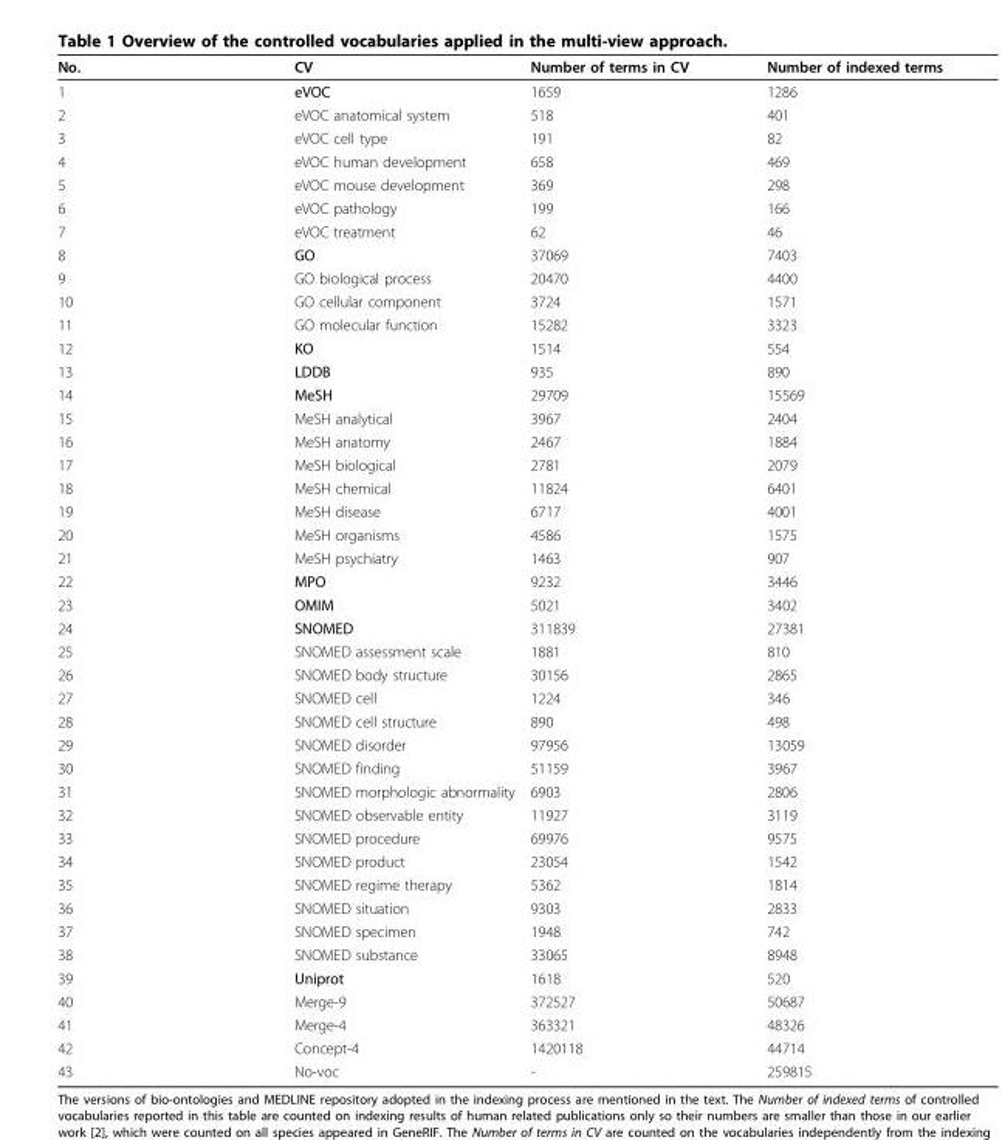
<table><thead><tr><td>No.</td><td>CV</td><td>Number of terms in CV</td><td>Number of indexed terms</td></tr></thead><tbody><tr><td>1</td><td>eVOC</td><td>1659</td><td>1286</td></tr><tr><td>2</td><td>eVOC anatomical system</td><td>518</td><td>401</td></tr><tr><td>3</td><td>eVOC cell type</td><td>191</td><td>82</td></tr><tr><td>4</td><td>eVOC human development</td><td>658</td><td>469</td></tr><tr><td>5</td><td>eVOC mouse development</td><td>369</td><td>298</td></tr><tr><td>6</td><td>eVOC pathology</td><td>199</td><td>166</td></tr><tr><td>7</td><td>eVOC treatment</td><td>62</td><td>46</td></tr><tr><td>8</td><td>GO</td><td>37069</td><td>7403</td></tr><tr><td>9</td><td>GO biological process</td><td>20470</td><td>4400</td></tr><tr><td>10</td><td>GO cellular component</td><td>3724</td><td>1571</td></tr><tr><td>11</td><td>GO molecular function</td><td>15282</td><td>3323</td></tr><tr><td>12</td><td>KO</td><td>1514</td><td>554</td></tr><tr><td>13</td><td>LDDB</td><td>935</td><td>890</td></tr><tr><td>14</td><td>MeSH</td><td>29709</td><td>15569</td></tr><tr><td>15</td><td>MeSH analytical</td><td>3967</td><td>2404</td></tr><tr><td>16</td><td>MeSH anatomy</td><td>2467</td><td>1884</td></tr><tr><td>17</td><td>MeSH biological</td><td>2781</td><td>2079</td></tr><tr><td>18</td><td>MeSH chemical</td><td>11824</td><td>6401</td></tr><tr><td>19</td><td>MeSH disease</td><td>6717</td><td>4001</td></tr><tr><td>20</td><td>MeSH organisms</td><td>4586</td><td>1575</td></tr><tr><td>21</td><td>MeSH psychiatry</td><td>1463</td><td>907</td></tr><tr><td>22</td><td>MPO</td><td>9232</td><td>3446</td></tr><tr><td>23</td><td>OMIM</td><td>5021</td><td>3402</td></tr><tr><td>24</td><td>SNOMED</td><td>311839</td><td>27381</td></tr><tr><td>25</td><td>SNOMED assessment scale</td><td>1881</td><td>810</td></tr><tr><td>26</td><td>SNOMED body structure</td><td>30156</td><td>2865</td></tr><tr><td>27</td><td>SNOMED cell</td><td>1224</td><td>346</td></tr><tr><td>28</td><td>SNOMED cell structure</td><td>890</td><td>498</td></tr><tr><td>29</td><td>SNOMED disorder</td><td>97956</td><td>13059</td></tr><tr><td>30</td><td>SNOMED finding</td><td>51159</td><td>3967</td></tr><tr><td>31</td><td>SNOMED morphologic abnormality</td><td>6903</td><td>2806</td></tr><tr><td>32</td><td>SNOMED observable entity</td><td>11927</td><td>3119</td></tr><tr><td>33</td><td>SNOMED procedure</td><td>69976</td><td>9575</td></tr><tr><td>34</td><td>SNOMED product</td><td>23054</td><td>1542</td></tr><tr><td>35</td><td>SNOMED regime therapy</td><td>5362</td><td>1814</td></tr><tr><td>36</td><td>SNOMED situation</td><td>9303</td><td>2833</td></tr><tr><td>37</td><td>SNOMED specimen</td><td>1948</td><td>742</td></tr><tr><td>38</td><td>SNOMED substance</td><td>33065</td><td>8948</td></tr><tr><td>39</td><td>Uniprot</td><td>1618</td><td>520</td></tr><tr><td>40</td><td>Merge-9</td><td>372527</td><td>50687</td></tr><tr><td>41</td><td>Merge-4</td><td>363321</td><td>48326</td></tr><tr><td>42</td><td>Concept-4</td><td>1420118</td><td>44714</td></tr><tr><td>43</td><td>No-voc</td><td>-</td><td>259815</td></tr></tbody></table>